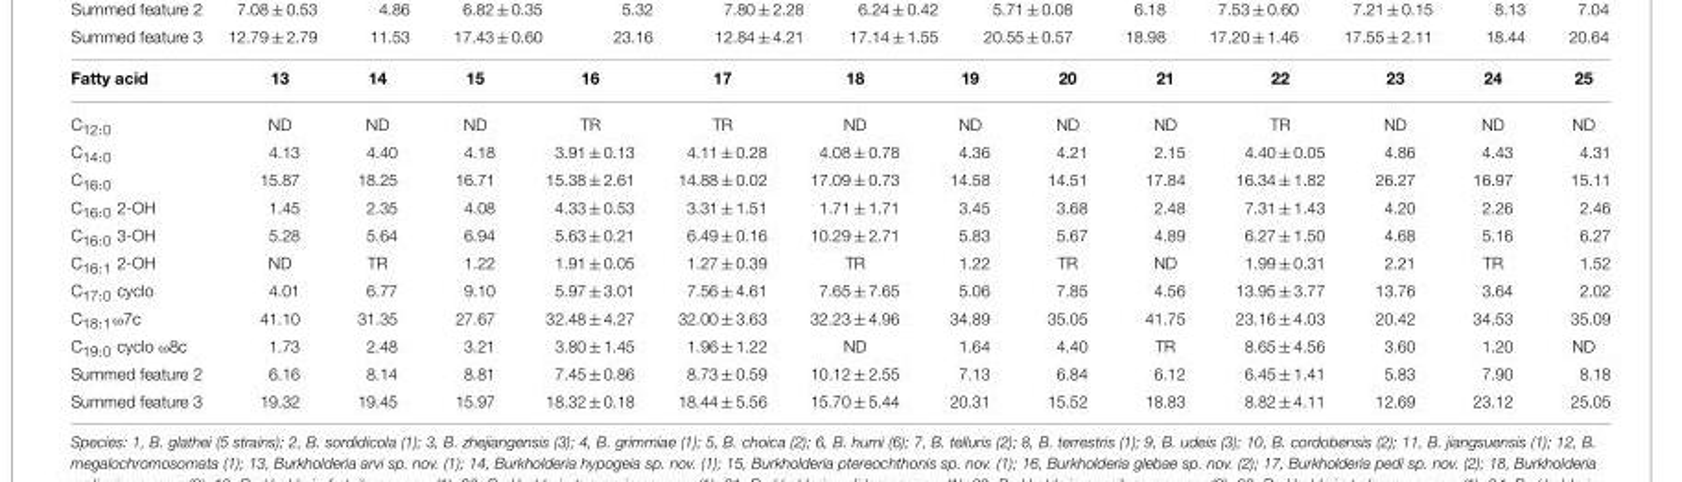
<table><tbody><tr><td>Fatty acid</td><td>13</td><td>14</td><td>15</td><td>16</td><td>17</td><td>18</td><td>19</td><td>20</td><td>21</td><td>22</td><td>23</td><td>24</td><td>25</td></tr><tr><td>C<sub>12:0</sub></td><td>ND</td><td>ND</td><td>ND</td><td>TR</td><td>TR</td><td>ND</td><td>ND</td><td>ND</td><td>ND</td><td>TR</td><td>ND</td><td>ND</td><td>ND</td></tr><tr><td>C<sub>14:0</sub></td><td>4.13</td><td>4.40</td><td>4.18</td><td>3.91 ± 0.13</td><td>4.11 ± 0.28</td><td>4.08 ± 0.78</td><td>4.36</td><td>4.21</td><td>2.15</td><td>4.40 ± 0.05</td><td>4.86</td><td>4.43</td><td>4.31</td></tr><tr><td>C<sub>16:0</sub></td><td>15.87</td><td>18.25</td><td>16.71</td><td>15.38 ± 2.61</td><td>14.88 ± 0.02</td><td>17.09 ± 0.73</td><td>14.58</td><td>14.51</td><td>17.84</td><td>16.34 ± 1.82</td><td>26.27</td><td>16.97</td><td>15.11</td></tr><tr><td>C<sub>16:0</sub> 2-OH</td><td>1.45</td><td>2.35</td><td>4.08</td><td>4.33 ± 0.53</td><td>3.31 ± 1.51</td><td>1.71 ± 1.71</td><td>3.45</td><td>3.68</td><td>2.48</td><td>7.31 ± 1.43</td><td>4.20</td><td>2.26</td><td>2.46</td></tr><tr><td>C<sub>16:0</sub> 3-OH</td><td>5.28</td><td>5.64</td><td>6.94</td><td>5.63 ± 0.21</td><td>6.49 ± 0.16</td><td>10.29 ± 2.71</td><td>5.83</td><td>5.67</td><td>4.89</td><td>6.27 ± 1.50</td><td>4.68</td><td>5.16</td><td>6.27</td></tr><tr><td>C<sub>16:1</sub> 2-OH</td><td>ND</td><td>TR</td><td>1.22</td><td>1.91 ± 0.05</td><td>1.27 ± 0.39</td><td>TR</td><td>1.22</td><td>TR</td><td>ND</td><td>1.99 ± 0.31</td><td>2.21</td><td>TR</td><td>1.52</td></tr><tr><td>C<sub>17:0</sub> cyclo</td><td>4.01</td><td>6.77</td><td>9.10</td><td>5.97 ± 3.01</td><td>7.56 ± 4.61</td><td>7.65 ± 7.65</td><td>5.06</td><td>7.85</td><td>4.56</td><td>13.95 ± 3.77</td><td>13.76</td><td>3.64</td><td>2.02</td></tr><tr><td>C<sub>18:1</sub>ω7c</td><td>41.10</td><td>31.35</td><td>27.67</td><td>32.48 ± 4.27</td><td>32.00 ± 3.63</td><td>32.23 ± 4.96</td><td>34.89</td><td>35.05</td><td>41.75</td><td>23.16 ± 4.03</td><td>20.42</td><td>34.53</td><td>35.09</td></tr><tr><td>C<sub>19:0</sub> cyclo ω8c</td><td>1.73</td><td>2.48</td><td>3.21</td><td>3.80 ± 1.45</td><td>1.96 ± 1.22</td><td>ND</td><td>1.64</td><td>4.40</td><td>TR</td><td>8.65 ± 4.56</td><td>3.60</td><td>1.20</td><td>ND</td></tr><tr><td>Summed feature 2</td><td>6.16</td><td>8.14</td><td>8.81</td><td>7.45 ± 0.86</td><td>8.73 ± 0.59</td><td>10.12 ± 2.55</td><td>7.13</td><td>6.84</td><td>6.12</td><td>6.45 ± 1.41</td><td>5.83</td><td>7.90</td><td>8.18</td></tr><tr><td>Summed feature 3</td><td>19.32</td><td>19.45</td><td>15.97</td><td>18.32 ± 0.18</td><td>18.44 ± 5.56</td><td>15.70 ± 5.44</td><td>20.31</td><td>15.52</td><td>18.83</td><td>8.82 ± 4.11</td><td>12.69</td><td>23.12</td><td>25.05</td></tr></tbody></table>